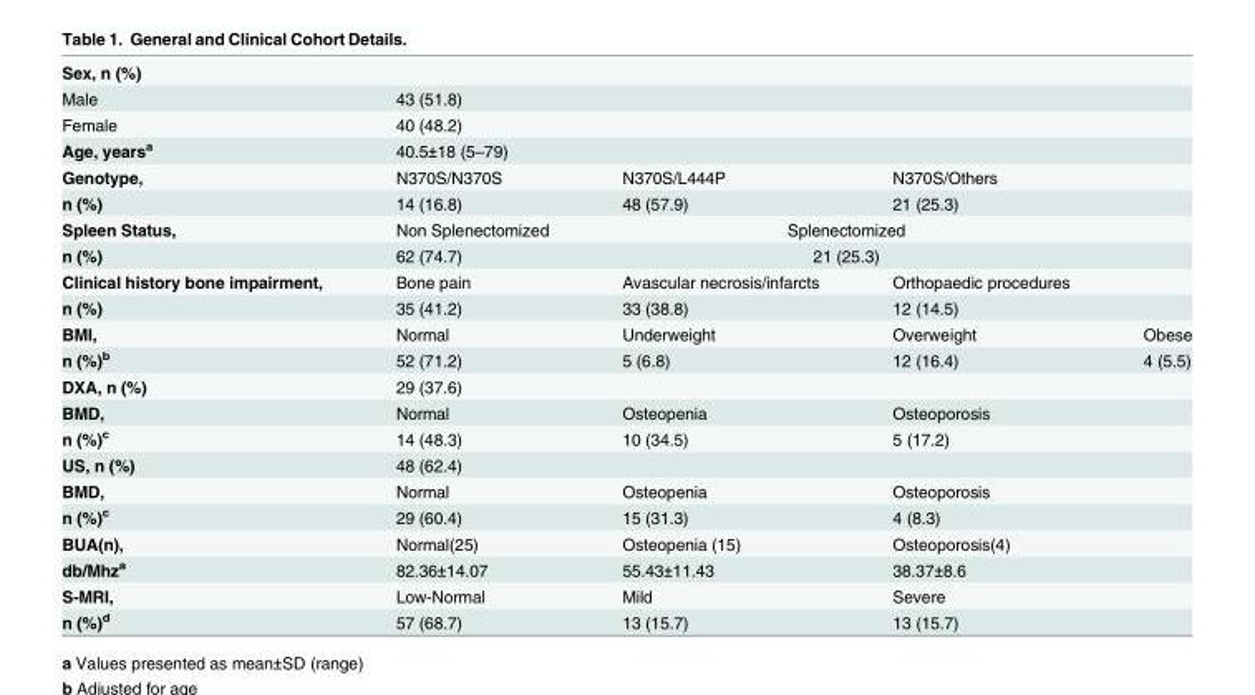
<table><tbody><tr><td colspan="5">Sex, n (%)</td></tr><tr><td>Male</td><td>43 (51.8)</td><td></td><td></td><td></td></tr><tr><td>Female</td><td>40 (48.2)</td><td></td><td></td><td></td></tr><tr><td>Age, years<sup>a</sup></td><td>40.5±18 (5–79)</td><td></td><td></td><td></td></tr><tr><td>Genotype,</td><td>N370S/N370S</td><td>N370S/L444P</td><td>N370S/Others</td><td></td></tr><tr><td>n (%)</td><td>14 (16.8)</td><td>48 (57.9)</td><td>21 (25.3)</td><td></td></tr><tr><td>Spleen Status,</td><td>Non Splenectomized</td><td colspan="2">Splenectomized</td><td></td></tr><tr><td>n (%)</td><td>62 (74.7)</td><td colspan="2">21 (25.3)</td><td></td></tr><tr><td>Clinical history bone impairment,</td><td>Bone pain</td><td>Avascular necrosis/infarcts</td><td>Orthopaedic procedures</td><td></td></tr><tr><td>n (%)</td><td>35 (41.2)</td><td>33 (38.8)</td><td>12 (14.5)</td><td></td></tr><tr><td>BMI,</td><td>Normal</td><td>Underweight</td><td>Overweight</td><td>Obese</td></tr><tr><td>n (%)<sup>b</sup></td><td>52 (71.2)</td><td>5 (6.8)</td><td>12 (16.4)</td><td>4 (5.5)</td></tr><tr><td>DXA, n (%)</td><td>29 (37.6)</td><td></td><td></td><td></td></tr><tr><td>BMD,</td><td>Normal</td><td>Osteopenia</td><td>Osteoporosis</td><td></td></tr><tr><td>n (%)<sup>c</sup></td><td>14 (48.3)</td><td>10 (34.5)</td><td>5 (17.2)</td><td></td></tr><tr><td>US, n (%)</td><td>48 (62.4)</td><td></td><td></td><td></td></tr><tr><td>BMD,</td><td>Normal</td><td>Osteopenia</td><td>Osteoporosis</td><td></td></tr><tr><td>n (%)<sup>c</sup></td><td>29 (60.4)</td><td>15 (31.3)</td><td>4 (8.3)</td><td></td></tr><tr><td>BUA(n),</td><td>Normal(25)</td><td>Osteopenia (15)</td><td>Osteoporosis(4)</td><td></td></tr><tr><td>db/Mhz<sup>a</sup></td><td>82.36±14.07</td><td>55.43±11.43</td><td>38.37±8.6</td><td></td></tr><tr><td>S-MRI,</td><td>Low-Normal</td><td>Mild</td><td>Severe</td><td></td></tr><tr><td>n (%)<sup>d</sup></td><td>57 (68.7)</td><td>13 (15.7)</td><td>13 (15.7)</td><td></td></tr></tbody></table>